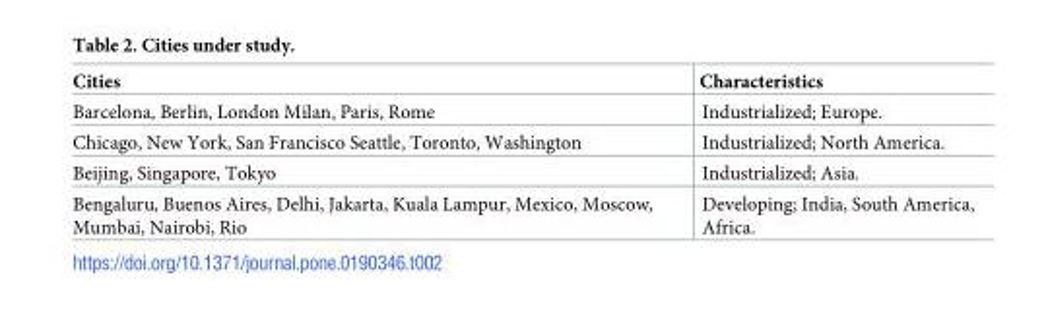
<table><thead><tr><td>Cities</td><td>Characteristics</td></tr></thead><tbody><tr><td>Barcelona, Berlin, London Milan, Paris, Rome</td><td>Industrialized; Europe.</td></tr><tr><td>Chicago, New York, San Francisco Seattle, Toronto, Washington</td><td>Industrialized; North America.</td></tr><tr><td>Beijing, Singapore, Tokyo</td><td>Industrialized; Asia.</td></tr><tr><td>Bengaluru, Buenos Aires, Delhi, Jakarta, Kuala Lampur, Mexico, Moscow, Mumbai, Nairobi, Rio</td><td>Developing; India, South America, Africa.</td></tr></tbody></table>